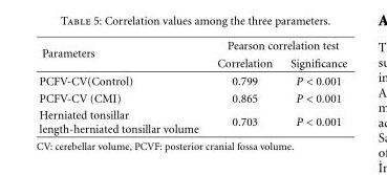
<table><thead><tr><td rowspan="2">Parameters</td><td colspan="2">Pearson correlation test</td></tr><tr><td>Correlation</td><td>Significance</td></tr></thead><tbody><tr><td>PCFV-CV(Control)</td><td>0.799</td><td>P &lt; 0.001</td></tr><tr><td>PCFV-CV (CMI)</td><td>0.865</td><td>P &lt; 0.001</td></tr><tr><td>Herniated tonsillar length-herniated tonsillar volume</td><td>0.703</td><td>P &lt; 0.001</td></tr></tbody></table>